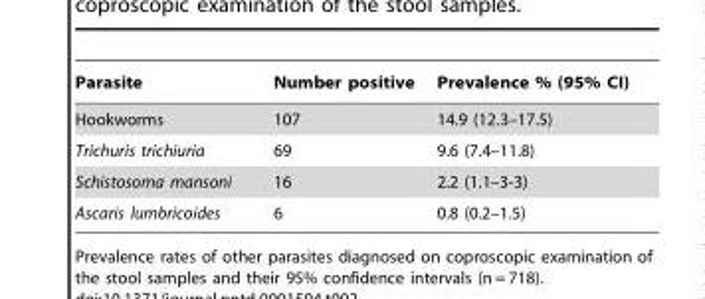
<table><thead><tr><td>Parasite</td><td>Number positive</td><td>Prevalence % (95% CI)</td></tr></thead><tbody><tr><td>Hookworms</td><td>107</td><td>14.9 (12.3–17.5)</td></tr><tr><td>Trichuris trichiuria</td><td>69</td><td>9.6 (7.4–11.8)</td></tr><tr><td>Schistosoma mansoni</td><td>16</td><td>2.2 (1.1–3-3)</td></tr><tr><td>Ascaris lumbricoides</td><td>6</td><td>0.8 (0.2–1.5)</td></tr></tbody></table>